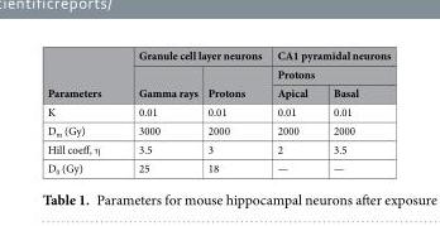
<table><thead><tr><td rowspan="3">Parameters</td><td colspan="2">Granule cell layer neurons</td><td rowspan="2" colspan="2">CA1 pyramidal neurons Protons</td></tr><tr><td rowspan="2">Gamma rays</td><td rowspan="2">Protons</td></tr><tr><td>Apical</td><td>Basal</td></tr></thead><tbody><tr><td>K</td><td>0.01</td><td>0.01</td><td>0.01</td><td>0.01</td></tr><tr><td>D<sub>m</sub> (Gy)</td><td>3000</td><td>2000</td><td>2000</td><td>2000</td></tr><tr><td>Hill coeff, η</td><td>3.5</td><td>3</td><td>2</td><td>3.5</td></tr><tr><td>D<sub>0</sub> (Gy)</td><td>25</td><td>18</td><td>—</td><td>—</td></tr></tbody></table>